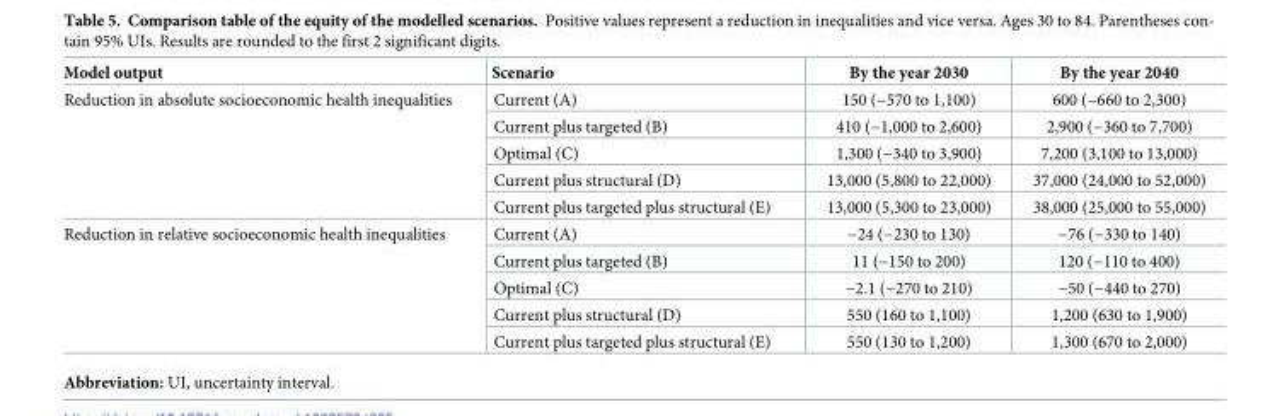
<table><thead><tr><td>Model output</td><td>Scenario</td><td>By the year 2030</td><td>By the year 2040</td></tr></thead><tbody><tr><td rowspan="5">Reduction in absolute socioeconomic health inequalities</td><td>Current (A)</td><td>150 (−570 to 1,100)</td><td>600 (−660 to 2,300)</td></tr><tr><td>Current plus targeted (B)</td><td>410 (−1,000 to 2,600)</td><td>2,900 (−360 to 7,700)</td></tr><tr><td>Optimal (C)</td><td>1,300 (−340 to 3,900)</td><td>7,200 (3,100 to 13,000)</td></tr><tr><td>Current plus structural (D)</td><td>13,000 (5,800 to 22,000)</td><td>37,000 (24,000 to 52,000)</td></tr><tr><td>Current plus targeted plus structural (E)</td><td>13,000 (5,300 to 23,000)</td><td>38,000 (25,000 to 55,000)</td></tr><tr><td rowspan="5">Reduction in relative socioeconomic health inequalities</td><td>Current (A)</td><td>−24 (−230 to 130)</td><td>−76 (−330 to 140)</td></tr><tr><td>Current plus targeted (B)</td><td>11 (−150 to 200)</td><td>120 (−110 to 400)</td></tr><tr><td>Optimal (C)</td><td>−2.1 (−270 to 210)</td><td>−50 (−440 to 270)</td></tr><tr><td>Current plus structural (D)</td><td>550 (160 to 1,100)</td><td>1,200 (630 to 1,900)</td></tr><tr><td>Current plus targeted plus structural (E)</td><td>550 (130 to 1,200)</td><td>1,300 (670 to 2,000)</td></tr></tbody></table>